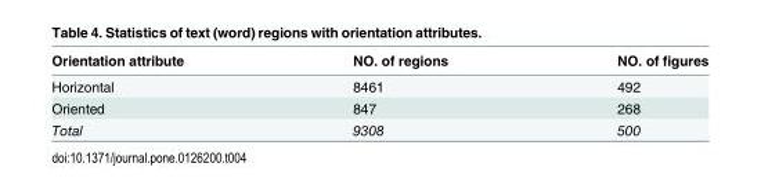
<table><thead><tr><td>Orientation attribute</td><td>NO. of regions</td><td>NO. of figures</td></tr></thead><tbody><tr><td>Horizontal</td><td>8461</td><td>492</td></tr><tr><td>Oriented</td><td>847</td><td>268</td></tr><tr><td>Total</td><td>9308</td><td>500</td></tr></tbody></table>